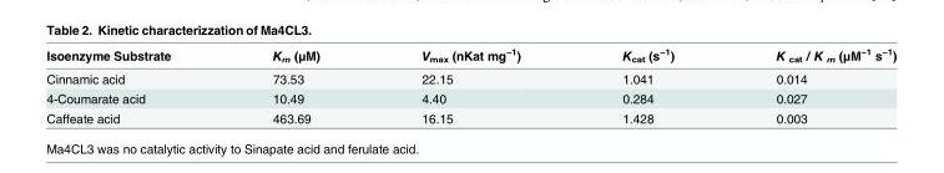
<table><thead><tr><td>Isoenzyme Substrate</td><td>K<sub>m</sub> (μM)</td><td>V<sub>max</sub> (nKat mg<sup>−1</sup>)</td><td>K<sub>cat</sub> (s<sup>−1</sup>)</td><td>K <sub>cat</sub> / K <sub>m</sub> (μM<sup>−1</sup> s<sup>−1</sup>)</td></tr></thead><tbody><tr><td>Cinnamic acid</td><td>73.53</td><td>22.15</td><td>1.041</td><td>0.014</td></tr><tr><td>4-Coumarate acid</td><td>10.49</td><td>4.40</td><td>0.284</td><td>0.027</td></tr><tr><td>Caffeate acid</td><td>463.69</td><td>16.15</td><td>1.428</td><td>0.003</td></tr></tbody></table>